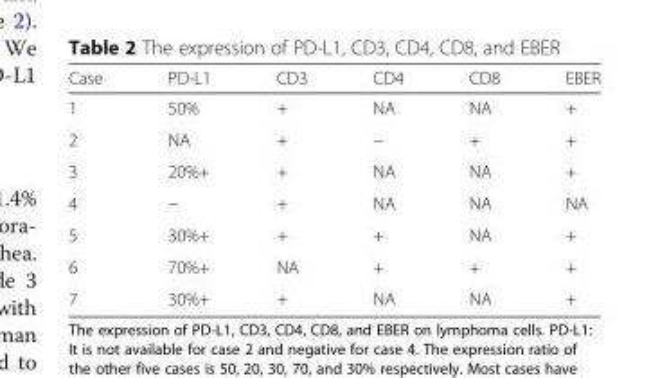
<table><thead><tr><td>Case</td><td>PD-L1</td><td>CD3</td><td>CD4</td><td>CD8</td><td>EBER</td></tr></thead><tbody><tr><td>1</td><td>50%</td><td>+</td><td>NA</td><td>NA</td><td>+</td></tr><tr><td>2</td><td>NA</td><td>+</td><td>−</td><td>+</td><td>+</td></tr><tr><td>3</td><td>20%+</td><td>+</td><td>NA</td><td>NA</td><td>+</td></tr><tr><td>4</td><td>−</td><td>+</td><td>NA</td><td>NA</td><td>NA</td></tr><tr><td>5</td><td>30%+</td><td>+</td><td>+</td><td>NA</td><td>+</td></tr><tr><td>6</td><td>70%+</td><td>NA</td><td>+</td><td>+</td><td>+</td></tr><tr><td>7</td><td>30%+</td><td>+</td><td>NA</td><td>NA</td><td>+</td></tr></tbody></table>